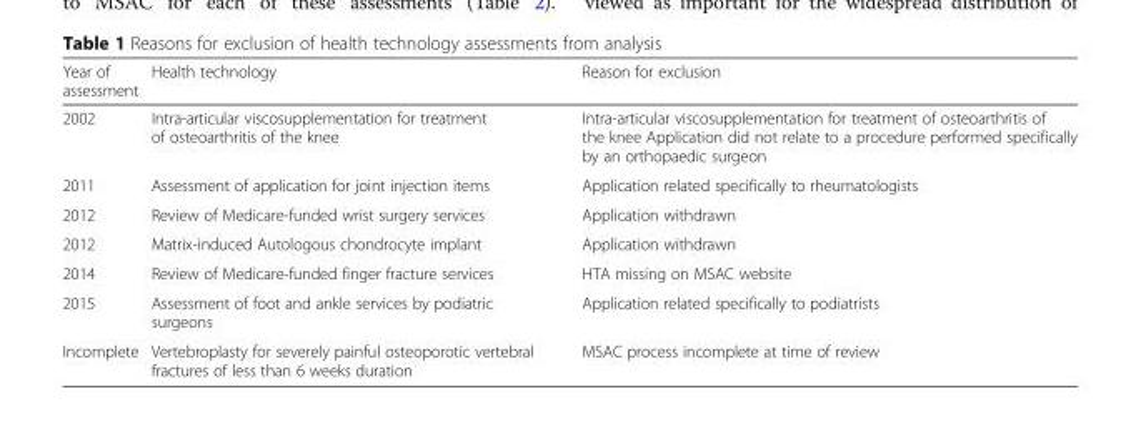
<table><thead><tr><td>Year of assessment</td><td>Health technology</td><td>Reason for exclusion</td></tr></thead><tbody><tr><td>2002</td><td>Intra-articular viscosupplementation for treatment of osteoarthritis of the knee</td><td>Intra-articular viscosupplementation for treatment of osteoarthritis of the knee Application did not relate to a procedure performed specifically by an orthopaedic surgeon</td></tr><tr><td>2011</td><td>Assessment of application for joint injection items</td><td>Application related specifically to rheumatologists</td></tr><tr><td>2012</td><td>Review of Medicare-funded wrist surgery services</td><td>Application withdrawn</td></tr><tr><td>2012</td><td>Matrix-induced Autologous chondrocyte implant</td><td>Application withdrawn</td></tr><tr><td>2014</td><td>Review of Medicare-funded finger fracture services</td><td>HTA missing on MSAC website</td></tr><tr><td>2015</td><td>Assessment of foot and ankle services by podiatric surgeons</td><td>Application related specifically to podiatrists</td></tr><tr><td>Incomplete</td><td>Vertebroplasty for severely painful osteoporotic vertebral fractures of less than 6 weeks duration</td><td>MSAC process incomplete at time of review</td></tr></tbody></table>